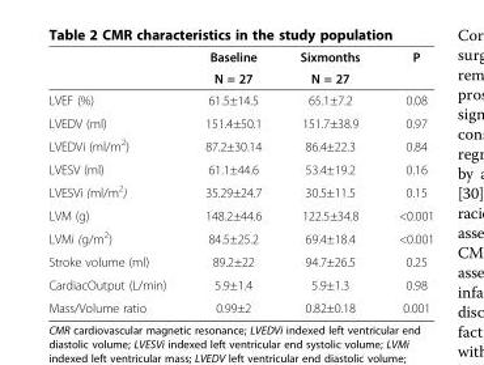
<table><thead><tr><td rowspan="2"></td><td rowspan="2">Baseline N = 27</td><td rowspan="2">Sixmonths N = 27</td><td rowspan="2">P</td></tr><tr></tr></thead><tbody><tr><td>LVEF (%)</td><td>61.5±14.5</td><td>65.1±7.2</td><td>0.08</td></tr><tr><td>LVEDV (ml)</td><td>151.4±50.1</td><td>151.7±38.9</td><td>0.97</td></tr><tr><td>LVEDVi (ml/m<sup>2</sup>)</td><td>87.2±30.14</td><td>86.4±22.3</td><td>0.84</td></tr><tr><td>LVESV (ml)</td><td>61.1±44.6</td><td>53.4±19.2</td><td>0.16</td></tr><tr><td>LVESVi (ml/m<sup>2</sup>)</td><td>35.29±24.7</td><td>30.5±11.5</td><td>0.15</td></tr><tr><td>LVM (g)</td><td>148.2±44.6</td><td>122.5±34.8</td><td>&lt;0.001</td></tr><tr><td>LVMi (g/m<sup>2</sup>)</td><td>84.5±25.2</td><td>69.4±18.4</td><td>&lt;0.001</td></tr><tr><td>Stroke volume (ml)</td><td>89.2±22</td><td>94.7±26.5</td><td>0.25</td></tr><tr><td>CardiacOutput (L/min)</td><td>5.9±1.4</td><td>5.9±1.3</td><td>0.98</td></tr><tr><td>Mass/Volume ratio</td><td>0.99±2</td><td>0.82±0.18</td><td>0.001</td></tr></tbody></table>